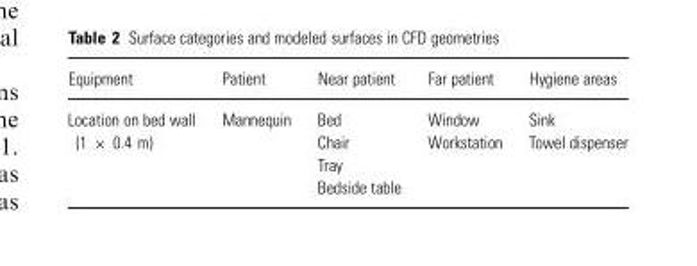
<table><thead><tr><td>Equipment</td><td>Patient</td><td>Near patient</td><td>Far patient</td><td>Hygiene areas</td></tr></thead><tbody><tr><td rowspan="4">Location on bed wall (1 × 0.4 m)</td><td>Mannequin</td><td>Bed</td><td>Window</td><td>Sink</td></tr><tr><td></td><td>Chair</td><td>Workstation</td><td>Towel dispenser</td></tr><tr><td></td><td>Tray</td><td></td><td></td></tr><tr><td></td><td>Bedside table</td><td></td><td></td></tr></tbody></table>